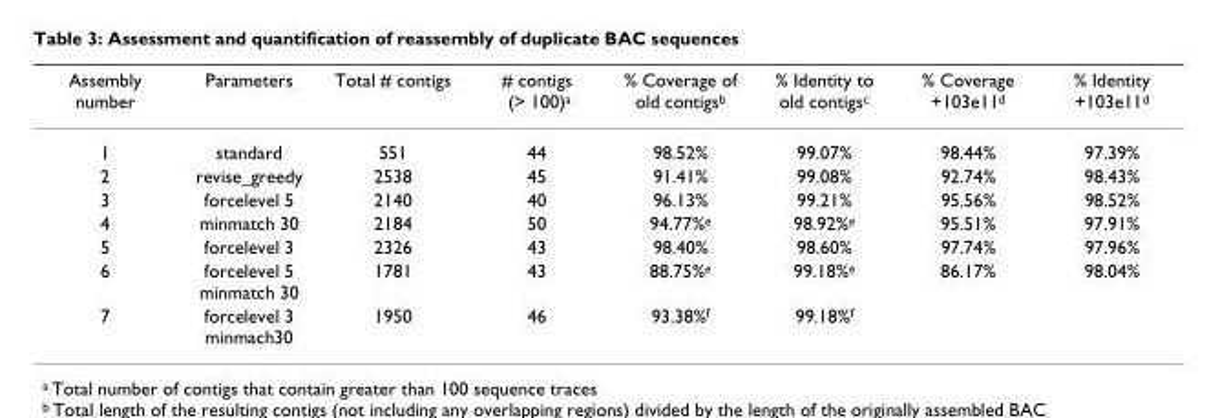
<table><thead><tr><td>Assembly number</td><td>Parameters</td><td>Total # contigs</td><td># contigs (&gt; 100)<sup>a</sup></td><td>% Coverage of old contigs<sup>b</sup></td><td>% Identity to old contigs<sup>c</sup></td><td>% Coverage +103e11<sup>d</sup></td><td>% Identity +103e11<sup>d</sup></td></tr></thead><tbody><tr><td>1</td><td>standard</td><td>551</td><td>44</td><td>98.52%</td><td>99.07%</td><td>98.44%</td><td>97.39%</td></tr><tr><td>2</td><td>revise_greedy</td><td>2538</td><td>45</td><td>91.41%</td><td>99.08%</td><td>92.74%</td><td>98.43%</td></tr><tr><td>3</td><td>forcelevel 5</td><td>2140</td><td>40</td><td>96.13%</td><td>99.21%</td><td>95.56%</td><td>98.52%</td></tr><tr><td>4</td><td>minmatch 30</td><td>2184</td><td>50</td><td>94.77%<sup>e</sup></td><td>98.92%<sup>e</sup></td><td>95.51%</td><td>97.91%</td></tr><tr><td>5</td><td>forcelevel 3</td><td>2326</td><td>43</td><td>98.40%</td><td>98.60%</td><td>97.74%</td><td>97.96%</td></tr><tr><td>6</td><td>forcelevel 5 minmatch 30</td><td>1781</td><td>43</td><td>88.75%<sup>e</sup></td><td>99.18%<sup>e</sup></td><td>86.17%</td><td>98.04%</td></tr><tr><td>7</td><td>forcelevel 3 minmach30</td><td>1950</td><td>46</td><td>93.38%<sup>f</sup></td><td>99.18%<sup>f</sup></td><td></td><td></td></tr></tbody></table>